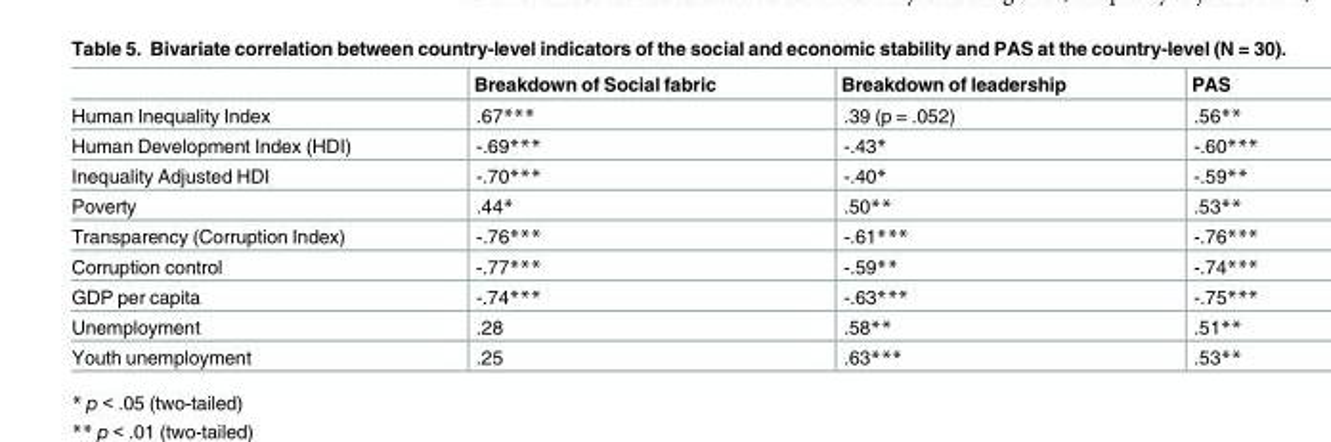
<table><thead><tr><td></td><td>Breakdown of Social fabric</td><td>Breakdown of leadership</td><td>PAS</td></tr></thead><tbody><tr><td>Human Inequality Index</td><td>.67***</td><td>.39 (p = .052)</td><td>.56**</td></tr><tr><td>Human Development Index (HDI)</td><td>-.69***</td><td>-.43*</td><td>-.60***</td></tr><tr><td>Inequality Adjusted HDI</td><td>-.70***</td><td>-.40*</td><td>-.59**</td></tr><tr><td>Poverty</td><td>.44*</td><td>.50**</td><td>.53**</td></tr><tr><td>Transparency (Corruption Index)</td><td>-.76***</td><td>-.61***</td><td>-.76***</td></tr><tr><td>Corruption control</td><td>-.77***</td><td>-.59**</td><td>-.74***</td></tr><tr><td>GDP per capita</td><td>-.74***</td><td>-.63***</td><td>-.75***</td></tr><tr><td>Unemployment</td><td>.28</td><td>.58**</td><td>.51**</td></tr><tr><td>Youth unemployment</td><td>.25</td><td>.63***</td><td>.53**</td></tr></tbody></table>